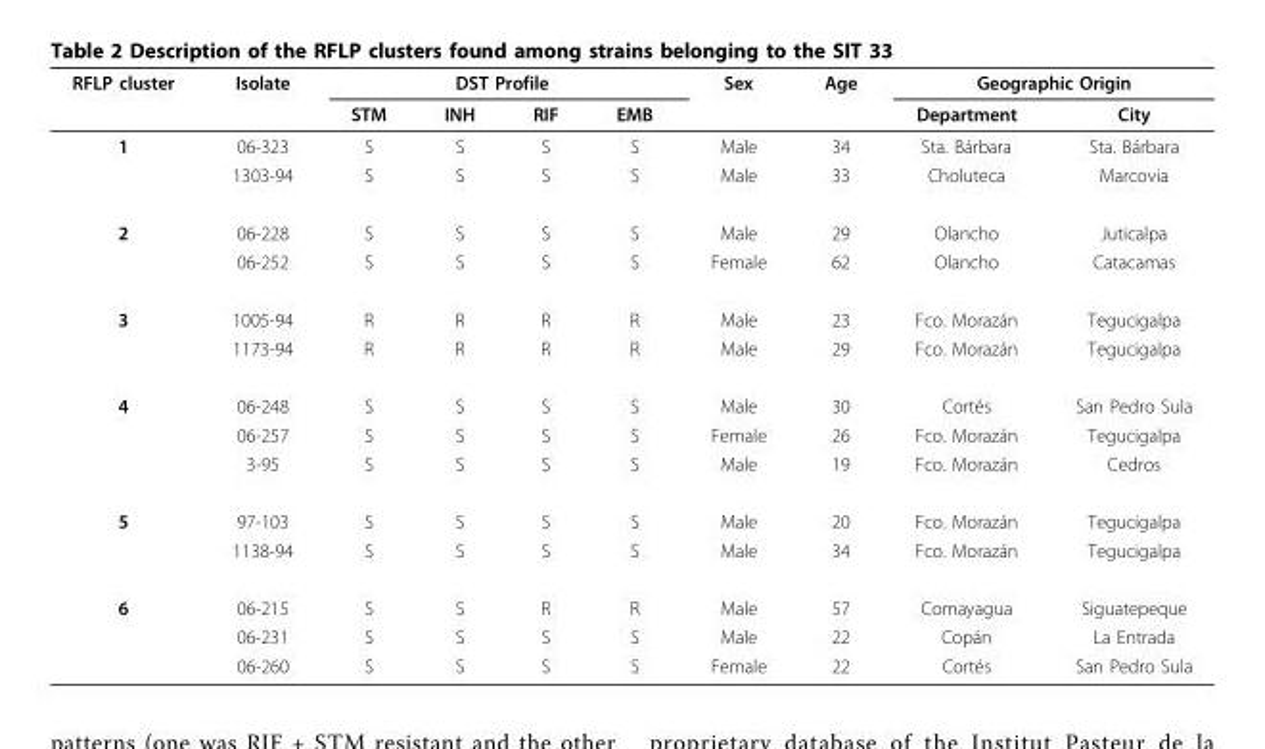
<table><thead><tr><td rowspan="2">RFLP cluster</td><td rowspan="2">Isolate</td><td colspan="4">DST Profile</td><td rowspan="2">Sex</td><td rowspan="2">Age</td><td colspan="2">Geographic Origin</td></tr><tr><td>STM</td><td>INH</td><td>RIF</td><td>EMB</td><td>Department</td><td>City</td></tr></thead><tbody><tr><td rowspan="2">1</td><td>06-323</td><td>S</td><td>S</td><td>S</td><td>S</td><td>Male</td><td>34</td><td>Sta. Bárbara</td><td>Sta. Bárbara</td></tr><tr><td>1303-94</td><td>S</td><td>S</td><td>S</td><td>S</td><td>Male</td><td>33</td><td>Choluteca</td><td>Marcovia</td></tr><tr><td rowspan="2">2</td><td>06-228</td><td>S</td><td>S</td><td>S</td><td>S</td><td>Male</td><td>29</td><td>Olancho</td><td>Juticalpa</td></tr><tr><td>06-252</td><td>S</td><td>S</td><td>S</td><td>S</td><td>Female</td><td>62</td><td>Olancho</td><td>Catacamas</td></tr><tr><td rowspan="2">3</td><td>1005-94</td><td>R</td><td>R</td><td>R</td><td>R</td><td>Male</td><td>23</td><td>Fco. Morazán</td><td>Tegucigalpa</td></tr><tr><td>1173-94</td><td>R</td><td>R</td><td>R</td><td>R</td><td>Male</td><td>29</td><td>Fco. Morazán</td><td>Tegucigalpa</td></tr><tr><td rowspan="3">4</td><td>06-248</td><td>S</td><td>S</td><td>S</td><td>S</td><td>Male</td><td>30</td><td>Cortés</td><td>San Pedro Sula</td></tr><tr><td>06-257</td><td>S</td><td>S</td><td>S</td><td>S</td><td>Female</td><td>26</td><td>Fco. Morazán</td><td>Tegucigalpa</td></tr><tr><td>3-95</td><td>S</td><td>S</td><td>S</td><td>S</td><td>Male</td><td>19</td><td>Fco. Morazán</td><td>Cedros</td></tr><tr><td rowspan="2">5</td><td>97-103</td><td>S</td><td>S</td><td>S</td><td>S</td><td>Male</td><td>20</td><td>Fco. Morazán</td><td>Tegucigalpa</td></tr><tr><td>1138-94</td><td>S</td><td>S</td><td>S</td><td>S</td><td>Male</td><td>34</td><td>Fco. Morazán</td><td>Tegucigalpa</td></tr><tr><td rowspan="3">6</td><td>06-215</td><td>S</td><td>S</td><td>R</td><td>R</td><td>Male</td><td>57</td><td>Comayagua</td><td>Siguatepeque</td></tr><tr><td>06-231</td><td>S</td><td>S</td><td>S</td><td>S</td><td>Male</td><td>22</td><td>Copán</td><td>La Entrada</td></tr><tr><td>06-260</td><td>S</td><td>S</td><td>S</td><td>S</td><td>Female</td><td>22</td><td>Cortés</td><td>San Pedro Sula</td></tr></tbody></table>